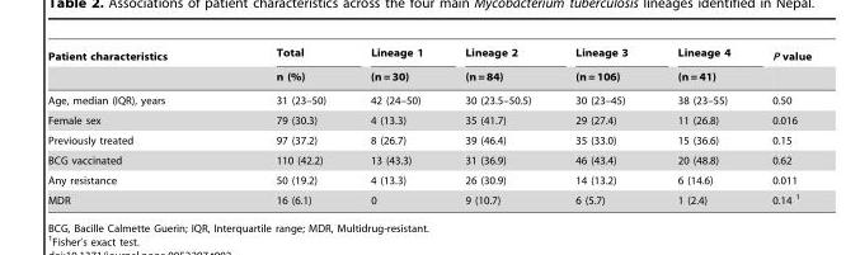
<table><thead><tr><td rowspan="2">Patient characteristics</td><td rowspan="2">Total n (%)</td><td rowspan="2">Lineage 1 (n = 30)</td><td rowspan="2">Lineage 2 (n = 84)</td><td rowspan="2">Lineage 3 (n = 106)</td><td rowspan="2">Lineage 4 (n = 41)</td><td rowspan="2">P value</td></tr><tr></tr></thead><tbody><tr><td>Age, median (IQR), years</td><td>31 (23–50)</td><td>42 (24–50)</td><td>30 (23.5–50.5)</td><td>30 (23–45)</td><td>38 (23–55)</td><td>0.50</td></tr><tr><td>Female sex</td><td>79 (30.3)</td><td>4 (13.3)</td><td>35 (41.7)</td><td>29 (27.4)</td><td>11 (26.8)</td><td>0.016</td></tr><tr><td>Previously treated</td><td>97 (37.2)</td><td>8 (26.7)</td><td>39 (46.4)</td><td>35 (33.0)</td><td>15 (36.6)</td><td>0.15</td></tr><tr><td>BCG vaccinated</td><td>110 (42.2)</td><td>13 (43.3)</td><td>31 (36.9)</td><td>46 (43.4)</td><td>20 (48.8)</td><td>0.62</td></tr><tr><td>Any resistance</td><td>50 (19.2)</td><td>4 (13.3)</td><td>26 (30.9)</td><td>14 (13.2)</td><td>6 (14.6)</td><td>0.011</td></tr><tr><td>MDR</td><td>16 (6.1)</td><td>0</td><td>9 (10.7)</td><td>6 (5.7)</td><td>1 (2.4)</td><td>0.14 1</td></tr></tbody></table>